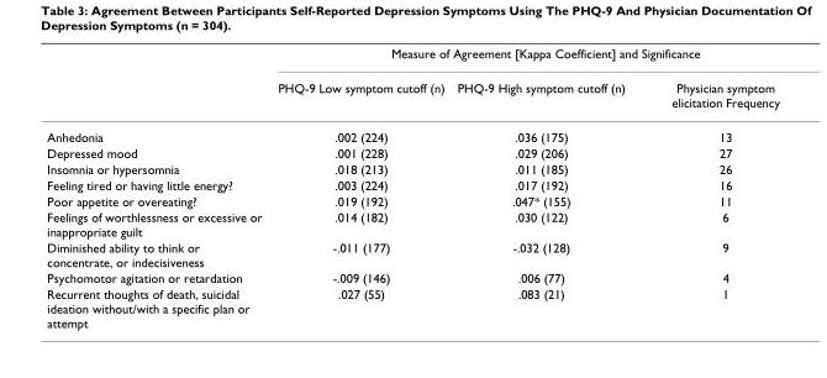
<table><thead><tr><td rowspan="2"></td><td colspan="3">Measure of Agreement [Kappa Coefficient] and Significance</td></tr><tr><td>PHQ-9 Low symptom cutoff (n)</td><td>PHQ-9 High symptom cutoff (n)</td><td>Physician symptom elicitation Frequency</td></tr></thead><tbody><tr><td>Anhedonia</td><td>.002 (224)</td><td>.036 (175)</td><td>13</td></tr><tr><td>Depressed mood</td><td>.001 (228)</td><td>.029 (206)</td><td>27</td></tr><tr><td>Insomnia or hypersomnia</td><td>.018 (213)</td><td>.011 (185)</td><td>26</td></tr><tr><td>Feeling tired or having little energy?</td><td>.003 (224)</td><td>.017 (192)</td><td>16</td></tr><tr><td>Poor appetite or overeating?</td><td>.019 (192)</td><td>.047* (155)</td><td>11</td></tr><tr><td>Feelings of worthlessness or excessive or inappropriate guilt</td><td>.014 (182)</td><td>.030 (122)</td><td>6</td></tr><tr><td>Diminished ability to think or concentrate, or indecisiveness</td><td>-.011 (177)</td><td>-.032 (128)</td><td>9</td></tr><tr><td>Psychomotor agitation or retardation</td><td>-.009 (146)</td><td>.006 (77)</td><td>4</td></tr><tr><td>Recurrent thoughts of death, suicidal ideation without/with a specific plan or attempt</td><td>.027 (55)</td><td>.083 (21)</td><td>1</td></tr></tbody></table>